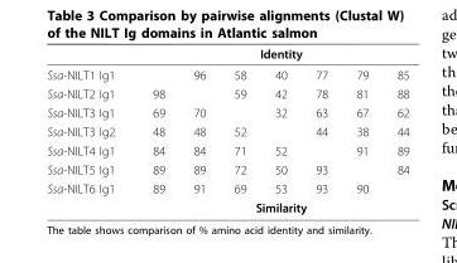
<table><thead><tr><td rowspan="2">Ssa-NILT1 Ig1</td><td colspan="7">Identity</td></tr><tr><td></td><td>96</td><td>58</td><td>40</td><td>77</td><td>79</td><td>85</td></tr></thead><tbody><tr><td>Ssa-NILT2 Ig1</td><td>98</td><td></td><td>59</td><td>42</td><td>78</td><td>81</td><td>88</td></tr><tr><td>Ssa-NILT3 Ig1</td><td>69</td><td>70</td><td></td><td>32</td><td>63</td><td>67</td><td>62</td></tr><tr><td>Ssa-NILT3 Ig2</td><td>48</td><td>48</td><td>52</td><td></td><td>44</td><td>38</td><td>44</td></tr><tr><td>Ssa-NILT4 Ig1</td><td>84</td><td>84</td><td>71</td><td>52</td><td></td><td>91</td><td>89</td></tr><tr><td>Ssa-NILT5 Ig1</td><td>89</td><td>89</td><td>72</td><td>50</td><td>93</td><td></td><td>84</td></tr><tr><td rowspan="2">Ssa-NILT6 Ig1</td><td>89</td><td>91</td><td>69</td><td>53</td><td>93</td><td>90</td><td></td></tr><tr><td colspan="7">Similarity</td></tr></tbody></table>